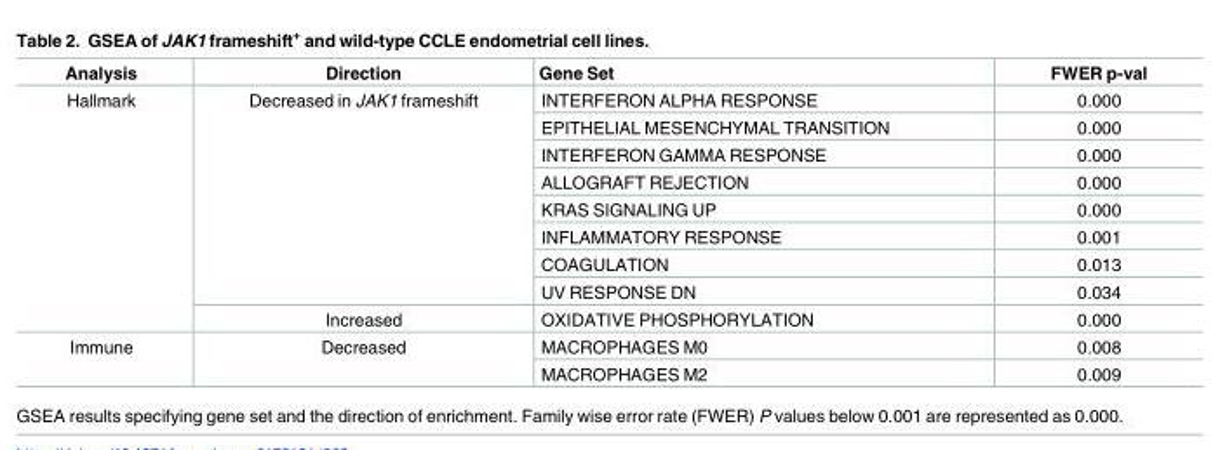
<table><thead><tr><td>Analysis</td><td>Direction</td><td>Gene Set</td><td>FWER p-val</td></tr></thead><tbody><tr><td rowspan="9">Hallmark</td><td rowspan="8">Decreased in JAK1 frameshift</td><td>INTERFERON ALPHA RESPONSE</td><td>0.000</td></tr><tr><td>EPITHELIAL MESENCHYMAL TRANSITION</td><td>0.000</td></tr><tr><td>INTERFERON GAMMA RESPONSE</td><td>0.000</td></tr><tr><td>ALLOGRAFT REJECTION</td><td>0.000</td></tr><tr><td>KRAS SIGNALING UP</td><td>0.000</td></tr><tr><td>INFLAMMATORY RESPONSE</td><td>0.001</td></tr><tr><td>COAGULATION</td><td>0.013</td></tr><tr><td>UV RESPONSE DN</td><td>0.034</td></tr><tr><td>Increased</td><td>OXIDATIVE PHOSPHORYLATION</td><td>0.000</td></tr><tr><td rowspan="2">Immune</td><td rowspan="2">Decreased</td><td>MACROPHAGES M0</td><td>0.008</td></tr><tr><td>MACROPHAGES M2</td><td>0.009</td></tr></tbody></table>